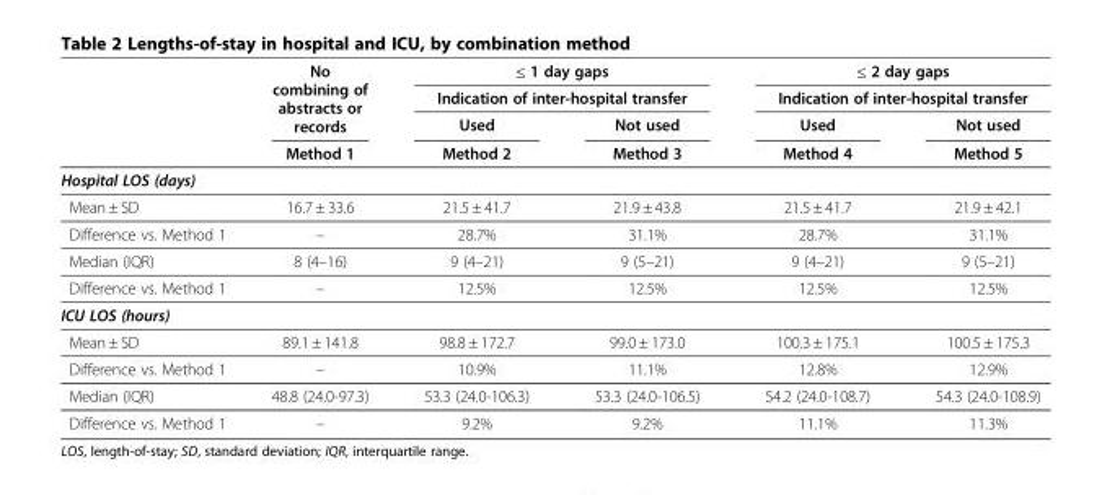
<table><thead><tr><td rowspan="4"></td><td rowspan="4">No combining of abstracts or records Method 1</td><td rowspan="2" colspan="2">≤ 1 day gaps Indication of inter-hospital transfer</td><td rowspan="2" colspan="2">≤ 2 day gaps Indication of inter-hospital transfer</td></tr><tr></tr><tr><td rowspan="2">Used Method 2</td><td rowspan="2">Not used Method 3</td><td rowspan="2">Used Method 4</td><td rowspan="2">Not used Method 5</td></tr><tr></tr></thead><tbody><tr><td colspan="6">Hospital LOS (days)</td></tr><tr><td>Mean ± SD</td><td>16.7 ± 33.6</td><td>21.5 ± 41.7</td><td>21.9 ± 43.8</td><td>21.5 ± 41.7</td><td>21.9 ± 42.1</td></tr><tr><td>Difference vs. Method 1</td><td>–</td><td>28.7%</td><td>31.1%</td><td>28.7%</td><td>31.1%</td></tr><tr><td>Median (IQR)</td><td>8 (4–16)</td><td>9 (4–21)</td><td>9 (5–21)</td><td>9 (4–21)</td><td>9 (5–21)</td></tr><tr><td>Difference vs. Method 1</td><td>–</td><td>12.5%</td><td>12.5%</td><td>12.5%</td><td>12.5%</td></tr><tr><td colspan="6">ICU LOS (hours)</td></tr><tr><td>Mean ± SD</td><td>89.1 ± 141.8</td><td>98.8 ± 172.7</td><td>99.0 ± 173.0</td><td>100.3 ± 175.1</td><td>100.5 ± 175.3</td></tr><tr><td>Difference vs. Method 1</td><td>–</td><td>10.9%</td><td>11.1%</td><td>12.8%</td><td>12.9%</td></tr><tr><td>Median (IQR)</td><td>48.8 (24.0-97.3)</td><td>53.3 (24.0-106.3)</td><td>53.3 (24.0-106.5)</td><td>54.2 (24.0-108.7)</td><td>54.3 (24.0-108.9)</td></tr><tr><td>Difference vs. Method 1</td><td>–</td><td>9.2%</td><td>9.2%</td><td>11.1%</td><td>11.3%</td></tr></tbody></table>